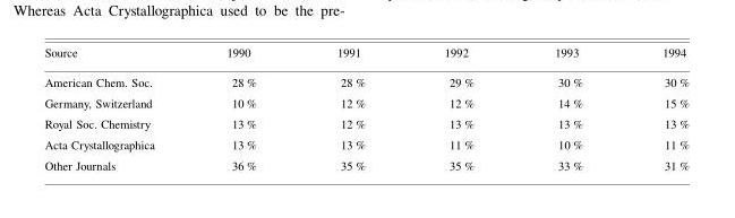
<table><thead><tr><td>Source</td><td>1990</td><td>1991</td><td>1992</td><td>1993</td><td>1994</td></tr></thead><tbody><tr><td>American Chem. Soc.</td><td>28 %</td><td>28 %</td><td>29 %</td><td>30 %</td><td>30 %</td></tr><tr><td>Germany, Switzerland</td><td>10 %</td><td>12 %</td><td>12 %</td><td>14 %</td><td>15 %</td></tr><tr><td>Royal Soc. Chemistry</td><td>13 %</td><td>12 %</td><td>13 %</td><td>13 %</td><td>13 %</td></tr><tr><td>Acta Crystallographica</td><td>13 %</td><td>13 %</td><td>11 %</td><td>10 %</td><td>11 %</td></tr><tr><td>Other Journals</td><td>36 %</td><td>35 %</td><td>35 %</td><td>33 %</td><td>31 %</td></tr></tbody></table>